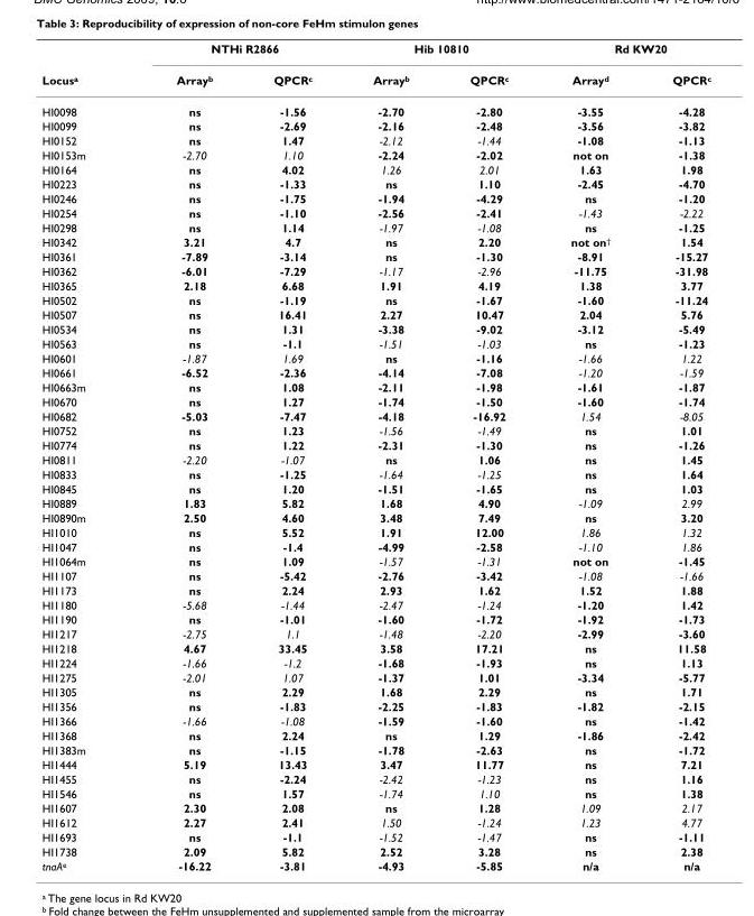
<table><thead><tr><td rowspan="2">Locus<sup>a</sup></td><td colspan="2">NTHi R2866</td><td colspan="2">Hib 10810</td><td colspan="2">Rd KW20</td></tr><tr><td>Array<sup>b</sup></td><td>QPCR<sup>c</sup></td><td>Array<sup>b</sup></td><td>QPCR<sup>c</sup></td><td>Array<sup>d</sup></td><td>QPCR<sup>c</sup></td></tr></thead><tbody><tr><td>HI0098</td><td>ns</td><td>-1.56</td><td>-2.70</td><td>-2.80</td><td>-3.55</td><td>-4.28</td></tr><tr><td>HI0099</td><td>ns</td><td>-2.69</td><td>-2.16</td><td>-2.48</td><td>-3.56</td><td>-3.82</td></tr><tr><td>HI0152</td><td>ns</td><td>1.47</td><td>-2.12</td><td>-1.44</td><td>-1.08</td><td>-1.13</td></tr><tr><td>HI0153m</td><td>-2.70</td><td>1.10</td><td>-2.24</td><td>-2.02</td><td>not on</td><td>-1.38</td></tr><tr><td>HI0164</td><td>ns</td><td>4.02</td><td>1.26</td><td>2.01</td><td>1.63</td><td>1.98</td></tr><tr><td>HI0223</td><td>ns</td><td>-1.33</td><td>ns</td><td>1.10</td><td>-2.45</td><td>-4.70</td></tr><tr><td>HI0246</td><td>ns</td><td>-1.75</td><td>-1.94</td><td>-4.29</td><td>ns</td><td>-1.20</td></tr><tr><td>HI0254</td><td>ns</td><td>-1.10</td><td>-2.56</td><td>-2.41</td><td>-1.43</td><td>-2.22</td></tr><tr><td>HI0298</td><td>ns</td><td>1.14</td><td>-1.97</td><td>-1.08</td><td>ns</td><td>-1.25</td></tr><tr><td>HI0342</td><td>3.21</td><td>4.7</td><td>ns</td><td>2.20</td><td>not on<sup>†</sup></td><td>1.54</td></tr><tr><td>HI0361</td><td>-7.89</td><td>-3.14</td><td>ns</td><td>-1.30</td><td>-8.91</td><td>-15.27</td></tr><tr><td>HI0362</td><td>-6.01</td><td>-7.29</td><td>-1.17</td><td>-2.96</td><td>-11.75</td><td>-31.98</td></tr><tr><td>HI0365</td><td>2.18</td><td>6.68</td><td>1.91</td><td>4.19</td><td>1.38</td><td>3.77</td></tr><tr><td>HI0502</td><td>ns</td><td>-1.19</td><td>ns</td><td>-1.67</td><td>-1.60</td><td>-11.24</td></tr><tr><td>HI0507</td><td>ns</td><td>16.41</td><td>2.27</td><td>10.47</td><td>2.04</td><td>5.76</td></tr><tr><td>HI0534</td><td>ns</td><td>1.31</td><td>-3.38</td><td>-9.02</td><td>-3.12</td><td>-5.49</td></tr><tr><td>HI0563</td><td>ns</td><td>-1.1</td><td>-1.51</td><td>-1.03</td><td>ns</td><td>-1.23</td></tr><tr><td>HI0601</td><td>-1.87</td><td>1.69</td><td>ns</td><td>-1.16</td><td>-1.66</td><td>1.22</td></tr><tr><td>HI0661</td><td>-6.52</td><td>-2.36</td><td>-4.14</td><td>-7.08</td><td>-1.20</td><td>-1.59</td></tr><tr><td>HI0663m</td><td>ns</td><td>1.08</td><td>-2.11</td><td>-1.98</td><td>-1.61</td><td>-1.87</td></tr><tr><td>HI0670</td><td>ns</td><td>1.27</td><td>-1.74</td><td>-1.50</td><td>-1.60</td><td>-1.74</td></tr><tr><td>HI0682</td><td>-5.03</td><td>-7.47</td><td>-4.18</td><td>-16.92</td><td>1.54</td><td>-8.05</td></tr><tr><td>HI0752</td><td>ns</td><td>1.23</td><td>-1.56</td><td>-1.49</td><td>ns</td><td>1.01</td></tr><tr><td>HI0774</td><td>ns</td><td>1.22</td><td>-2.31</td><td>-1.30</td><td>ns</td><td>-1.26</td></tr><tr><td>HI0811</td><td>-2.20</td><td>-1.07</td><td>ns</td><td>1.06</td><td>ns</td><td>1.45</td></tr><tr><td>HI0833</td><td>ns</td><td>-1.25</td><td>-1.64</td><td>-1.25</td><td>ns</td><td>1.64</td></tr><tr><td>HI0845</td><td>ns</td><td>1.20</td><td>-1.51</td><td>-1.65</td><td>ns</td><td>1.03</td></tr><tr><td>HI0889</td><td>1.83</td><td>5.82</td><td>1.68</td><td>4.90</td><td>-1.09</td><td>2.99</td></tr><tr><td>HI0890m</td><td>2.50</td><td>4.60</td><td>3.48</td><td>7.49</td><td>ns</td><td>3.20</td></tr><tr><td>HI1010</td><td>ns</td><td>5.52</td><td>1.91</td><td>12.00</td><td>1.86</td><td>1.32</td></tr><tr><td>HI1047</td><td>ns</td><td>-1.4</td><td>-4.99</td><td>-2.58</td><td>-1.10</td><td>1.86</td></tr><tr><td>HI1064m</td><td>ns</td><td>1.09</td><td>-1.57</td><td>-1.31</td><td>not on</td><td>-1.45</td></tr><tr><td>HI1107</td><td>ns</td><td>-5.42</td><td>-2.76</td><td>-3.42</td><td>-1.08</td><td>-1.66</td></tr><tr><td>HI1173</td><td>ns</td><td>2.24</td><td>2.93</td><td>1.62</td><td>1.52</td><td>1.88</td></tr><tr><td>HI1180</td><td>-5.68</td><td>-1.44</td><td>-2.47</td><td>-1.24</td><td>-1.20</td><td>1.42</td></tr><tr><td>HI1190</td><td>ns</td><td>-1.01</td><td>-1.60</td><td>-1.72</td><td>-1.92</td><td>-1.73</td></tr><tr><td>HI1217</td><td>-2.75</td><td>1.1</td><td>-1.48</td><td>-2.20</td><td>-2.99</td><td>-3.60</td></tr><tr><td>HI1218</td><td>4.67</td><td>33.45</td><td>3.58</td><td>17.21</td><td>ns</td><td>11.58</td></tr><tr><td>HI1224</td><td>-1.66</td><td>-1.2</td><td>-1.68</td><td>-1.93</td><td>ns</td><td>1.13</td></tr><tr><td>HI1275</td><td>-2.01</td><td>1.07</td><td>-1.37</td><td>1.01</td><td>-3.34</td><td>-5.77</td></tr><tr><td>HI1305</td><td>ns</td><td>2.29</td><td>1.68</td><td>2.29</td><td>ns</td><td>1.71</td></tr><tr><td>HI1356</td><td>ns</td><td>-1.83</td><td>-2.25</td><td>-1.83</td><td>-1.82</td><td>-2.15</td></tr><tr><td>HI1366</td><td>-1.66</td><td>-1.08</td><td>-1.59</td><td>-1.60</td><td>ns</td><td>-1.42</td></tr><tr><td>HI1368</td><td>ns</td><td>2.24</td><td>ns</td><td>1.29</td><td>-1.86</td><td>-2.42</td></tr><tr><td>HI1383m</td><td>ns</td><td>-1.15</td><td>-1.78</td><td>-2.63</td><td>ns</td><td>-1.72</td></tr><tr><td>HI1444</td><td>5.19</td><td>13.43</td><td>3.47</td><td>11.77</td><td>ns</td><td>7.21</td></tr><tr><td>HI1455</td><td>ns</td><td>-2.24</td><td>-2.42</td><td>-1.23</td><td>ns</td><td>1.16</td></tr><tr><td>HI1546</td><td>ns</td><td>1.57</td><td>-1.74</td><td>1.10</td><td>ns</td><td>1.38</td></tr><tr><td>HI1607</td><td>2.30</td><td>2.08</td><td>ns</td><td>1.28</td><td>1.09</td><td>2.17</td></tr><tr><td>HI1612</td><td>2.27</td><td>2.41</td><td>1.50</td><td>-1.24</td><td>1.23</td><td>4.77</td></tr><tr><td>HI1693</td><td>ns</td><td>-1.1</td><td>-1.52</td><td>-1.47</td><td>ns</td><td>-1.11</td></tr><tr><td>HI1738</td><td>2.09</td><td>5.82</td><td>2.52</td><td>3.28</td><td>ns</td><td>2.38</td></tr><tr><td>tnaA<sup>e</sup></td><td>-16.22</td><td>-3.81</td><td>-4.93</td><td>-5.85</td><td>n/a</td><td>n/a</td></tr></tbody></table>